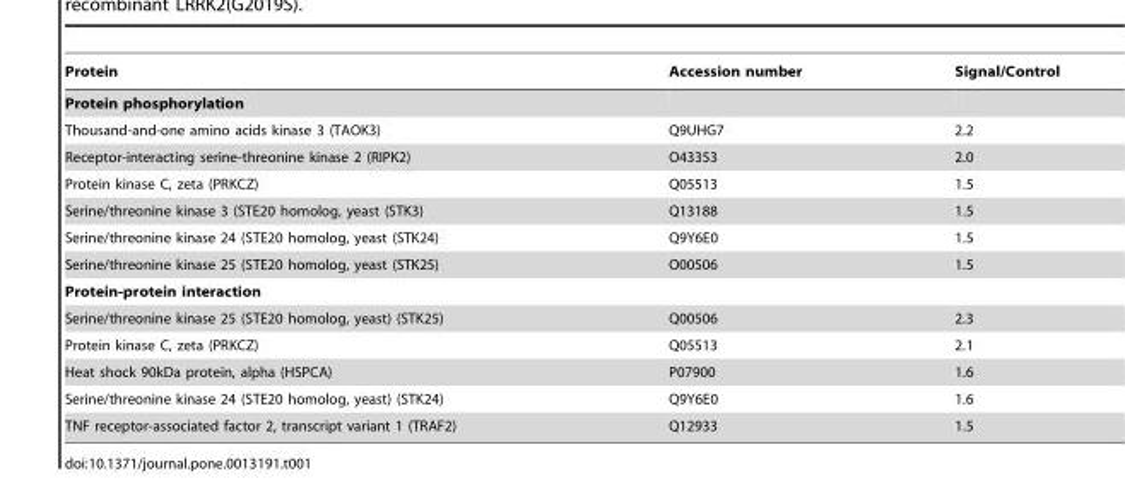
<table><thead><tr><td>Protein</td><td>Accession number</td><td>Signal/Control</td></tr></thead><tbody><tr><td colspan="3">Protein phosphorylation</td></tr><tr><td>Thousand-and-one amino acids kinase 3 (TAOK3)</td><td>Q9UHG7</td><td>2.2</td></tr><tr><td>Receptor-interacting serine-threonine kinase 2 (RIPK2)</td><td>O43353</td><td>2.0</td></tr><tr><td>Protein kinase C, zeta (PRKCZ)</td><td>Q05513</td><td>1.5</td></tr><tr><td>Serine/threonine kinase 3 (STE20 homolog, yeast (STK3)</td><td>Q13188</td><td>1.5</td></tr><tr><td>Serine/threonine kinase 24 (STE20 homolog, yeast (STK24)</td><td>Q9Y6E0</td><td>1.5</td></tr><tr><td>Serine/threonine kinase 25 (STE20 homolog, yeast (STK25)</td><td>O00506</td><td>1.5</td></tr><tr><td colspan="3">Protein-protein interaction</td></tr><tr><td>Serine/threonine kinase 25 (STE20 homolog, yeast) (STK25)</td><td>Q00506</td><td>2.3</td></tr><tr><td>Protein kinase C, zeta (PRKCZ)</td><td>Q05513</td><td>2.1</td></tr><tr><td>Heat shock 90kDa protein, alpha (HSPCA)</td><td>P07900</td><td>1.6</td></tr><tr><td>Serine/threonine kinase 24 (STE20 homolog, yeast) (STK24)</td><td>Q9Y6E0</td><td>1.6</td></tr><tr><td>TNF receptor-associated factor 2, transcript variant 1 (TRAF2)</td><td>Q12933</td><td>1.5</td></tr></tbody></table>